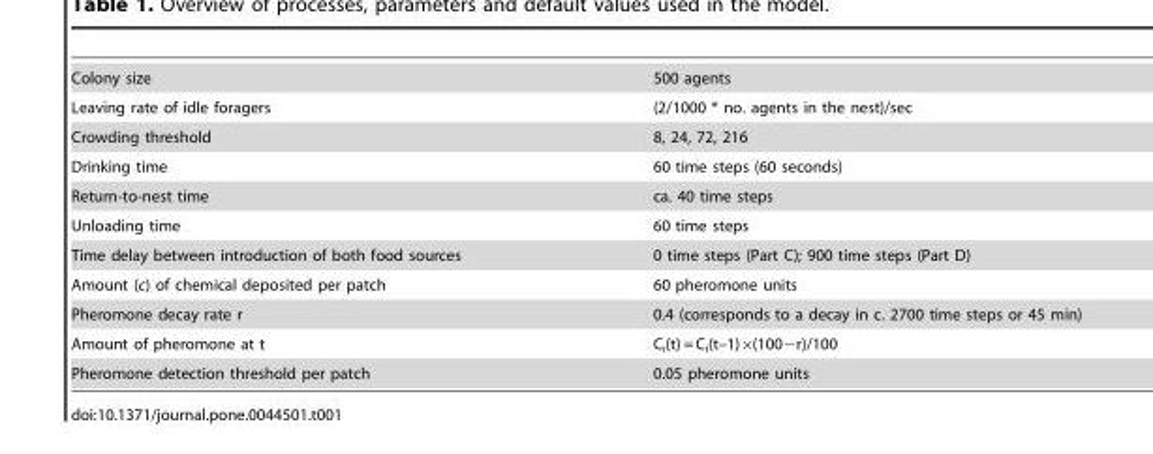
<table><tbody><tr><td>Colony size</td><td>500 agents</td></tr><tr><td>Leaving rate of idle foragers</td><td>(2/1000 * no. agents in the nest)/sec</td></tr><tr><td>Crowding threshold</td><td>8, 24, 72, 216</td></tr><tr><td>Drinking time</td><td>60 time steps (60 seconds)</td></tr><tr><td>Return-to-nest time</td><td>ca. 40 time steps</td></tr><tr><td>Unloading time</td><td>60 time steps</td></tr><tr><td>Time delay between introduction of both food sources</td><td>0 time steps (Part C); 900 time steps (Part D)</td></tr><tr><td>Amount (c) of chemical deposited per patch</td><td>60 pheromone units</td></tr><tr><td>Pheromone decay rate r</td><td>0.4 (corresponds to a decay in c. 2700 time steps or 45 min)</td></tr><tr><td>Amount of pheromone at t</td><td>C<sub>i</sub>(t) = C<sub>i</sub>(t–1)×(100−r)/100</td></tr><tr><td>Pheromone detection threshold per patch</td><td>0.05 pheromone units</td></tr></tbody></table>